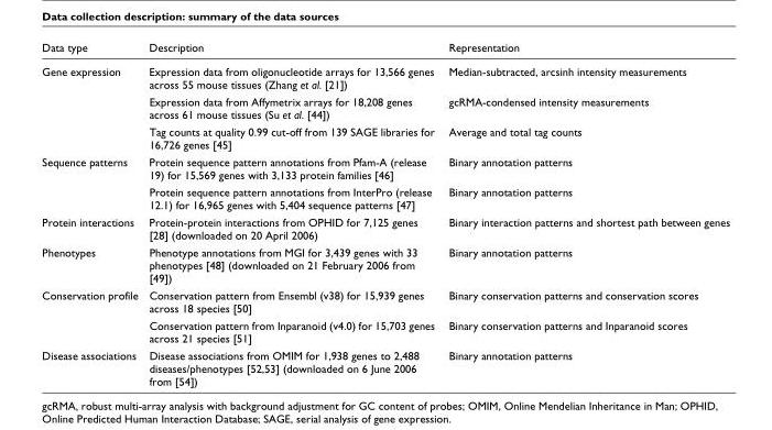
<table><thead><tr><td>Data type</td><td>Description</td><td>Representation</td></tr></thead><tbody><tr><td rowspan="3">Gene expression</td><td>Expression data from oligonucleotide arrays for 13,566 genes across 55 mouse tissues (Zhang et al. [21])</td><td>Median-subtracted, arcsinh intensity measurements</td></tr><tr><td>Expression data from Affymetrix arrays for 18,208 genes across 61 mouse tissues (Su et al. [44])</td><td>gcRMA-condensed intensity measurements</td></tr><tr><td>Tag counts at quality 0.99 cut-off from 139 SAGE libraries for 16,726 genes [45]</td><td>Average and total tag counts</td></tr><tr><td rowspan="2">Sequence patterns</td><td>Protein sequence pattern annotations from Pfam-A (release 19) for 15,569 genes with 3,133 protein families [46]</td><td>Binary annotation patterns</td></tr><tr><td>Protein sequence pattern annotations from InterPro (release 12.1) for 16,965 genes with 5,404 sequence patterns [47]</td><td>Binary annotation patterns</td></tr><tr><td>Protein interactions</td><td>Protein-protein interactions from OPHID for 7,125 genes [28] (downloaded on 20 April 2006)</td><td>Binary interaction patterns and shortest path between genes</td></tr><tr><td>Phenotypes</td><td>Phenotype annotations from MGI for 3,439 genes with 33 phenotypes [48] (downloaded on 21 February 2006 from [49])</td><td>Binary annotation patterns</td></tr><tr><td rowspan="2">Conservation profile</td><td>Conservation pattern from Ensembl (v38) for 15,939 genes across 18 species [50]</td><td>Binary conservation patterns and conservation scores</td></tr><tr><td>Conservation pattern from Inparanoid (v4.0) for 15,703 genes across 21 species [51]</td><td>Binary conservation patterns and Inparanoid scores</td></tr><tr><td>Disease associations</td><td>Disease associations from OMIM for 1,938 genes to 2,488 diseases/phenotypes [52,53] (downloaded on 6 June 2006 from [54])</td><td>Binary annotation patterns</td></tr></tbody></table>